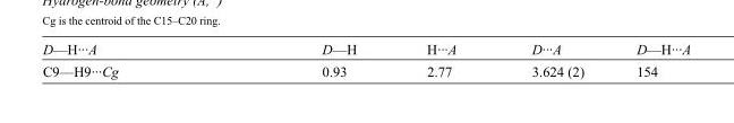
<table><tbody><tr><td>D—H···A</td><td>D—H</td><td>H···A</td><td>D···A</td><td>D—H···A</td></tr><tr><td>C9—H9···Cg</td><td>0.93</td><td>2.77</td><td>3.624 (2)</td><td>154</td></tr></tbody></table>